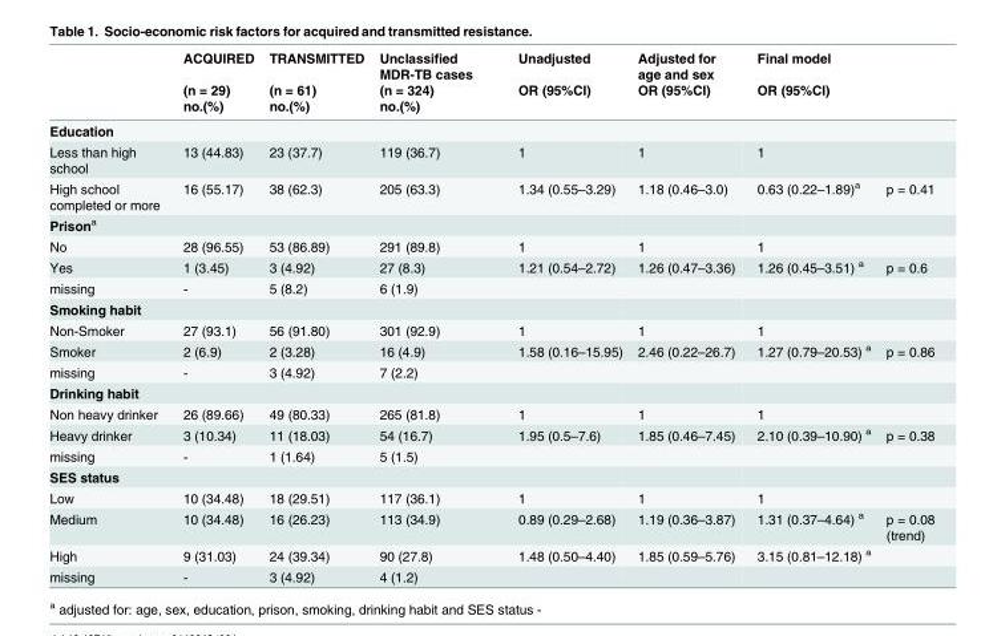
<table><thead><tr><td rowspan="3"></td><td rowspan="3">ACQUIRED (n = 29) no.(%)</td><td rowspan="3">TRANSMITTED (n = 61) no.(%)</td><td rowspan="3">Unclassified MDR-TB cases (n = 324) no.(%)</td><td rowspan="3">Unadjusted OR (95%CI)</td><td rowspan="3">Adjusted for age and sex OR (95%CI)</td><td rowspan="2" colspan="2">Final model OR (95%CI)</td></tr><tr></tr><tr><td></td><td></td></tr></thead><tbody><tr><td colspan="8">Education</td></tr><tr><td>Less than high school</td><td>13 (44.83)</td><td>23 (37.7)</td><td>119 (36.7)</td><td>1</td><td>1</td><td>1</td><td></td></tr><tr><td>High school completed or more</td><td>16 (55.17)</td><td>38 (62.3)</td><td>205 (63.3)</td><td>1.34 (0.55–3.29)</td><td>1.18 (0.46–3.0)</td><td>0.63 (0.22–1.89)<sup>a</sup></td><td>p = 0.41</td></tr><tr><td colspan="8">Prison<sup>a</sup></td></tr><tr><td>No</td><td>28 (96.55)</td><td>53 (86.89)</td><td>291 (89.8)</td><td>1</td><td>1</td><td>1</td><td></td></tr><tr><td>Yes</td><td>1 (3.45)</td><td>3 (4.92)</td><td>27 (8.3)</td><td>1.21 (0.54–2.72)</td><td>1.26 (0.47–3.36)</td><td>1.26 (0.45–3.51) <sup>a</sup></td><td>p = 0.6</td></tr><tr><td>missing</td><td>-</td><td>5 (8.2)</td><td>6 (1.9)</td><td></td><td></td><td></td><td></td></tr><tr><td colspan="8">Smoking habit</td></tr><tr><td>Non-Smoker</td><td>27 (93.1)</td><td>56 (91.80)</td><td>301 (92.9)</td><td>1</td><td>1</td><td>1</td><td></td></tr><tr><td>Smoker</td><td>2 (6.9)</td><td>2 (3.28)</td><td>16 (4.9)</td><td>1.58 (0.16–15.95)</td><td>2.46 (0.22–26.7)</td><td>1.27 (0.79–20.53) <sup>a</sup></td><td>p = 0.86</td></tr><tr><td>missing</td><td>-</td><td>3 (4.92)</td><td>7 (2.2)</td><td></td><td></td><td></td><td></td></tr><tr><td colspan="8">Drinking habit</td></tr><tr><td>Non heavy drinker</td><td>26 (89.66)</td><td>49 (80.33)</td><td>265 (81.8)</td><td>1</td><td>1</td><td>1</td><td></td></tr><tr><td>Heavy drinker</td><td>3 (10.34)</td><td>11 (18.03)</td><td>54 (16.7)</td><td>1.95 (0.5–7.6)</td><td>1.85 (0.46–7.45)</td><td>2.10 (0.39–10.90) <sup>a</sup></td><td>p = 0.38</td></tr><tr><td>missing</td><td>-</td><td>1 (1.64)</td><td>5 (1.5)</td><td></td><td></td><td></td><td></td></tr><tr><td colspan="8">SES status</td></tr><tr><td>Low</td><td>10 (34.48)</td><td>18 (29.51)</td><td>117 (36.1)</td><td>1</td><td>1</td><td>1</td><td></td></tr><tr><td>Medium</td><td>10 (34.48)</td><td>16 (26.23)</td><td>113 (34.9)</td><td>0.89 (0.29–2.68)</td><td>1.19 (0.36–3.87)</td><td>1.31 (0.37–4.64) <sup>a</sup></td><td>p = 0.08 (trend)</td></tr><tr><td>High</td><td>9 (31.03)</td><td>24 (39.34)</td><td>90 (27.8)</td><td>1.48 (0.50–4.40)</td><td>1.85 (0.59–5.76)</td><td>3.15 (0.81–12.18) <sup>a</sup></td><td></td></tr><tr><td>missing</td><td>-</td><td>3 (4.92)</td><td>4 (1.2)</td><td></td><td></td><td></td><td></td></tr></tbody></table>